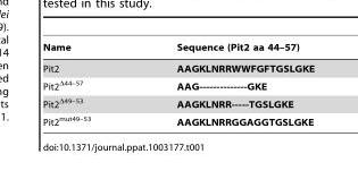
<table><thead><tr><td>Name</td><td>Sequence (Pit2 aa 44–57)</td></tr></thead><tbody><tr><td>Pit2</td><td>AAGKLNRRWWFGFTGSLGKE</td></tr><tr><td>Pit2<sup>Δ44–57</sup></td><td>AAG--------------GKE</td></tr><tr><td>Pit2<sup>Δ49–53</sup></td><td>AAGKLNRR-----TGSLGKE</td></tr><tr><td>Pit2<sup>mut49–53</sup></td><td>AAGKLNRRGGAGGTGSLGKE</td></tr></tbody></table>